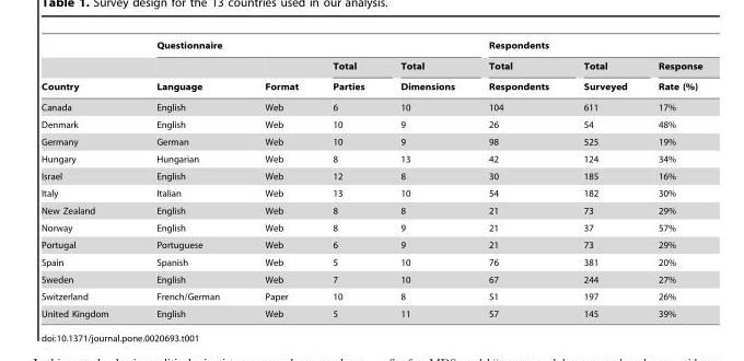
<table><thead><tr><td rowspan="3">Country</td><td colspan="4">Questionnaire</td><td colspan="3">Respondents</td></tr><tr><td rowspan="2">Language</td><td rowspan="2">Format</td><td rowspan="2">Total Parties</td><td rowspan="2">Total Dimensions</td><td rowspan="2">Total Respondents</td><td rowspan="2">Total Surveyed</td><td rowspan="2">Response Rate (%)</td></tr><tr></tr></thead><tbody><tr><td>Canada</td><td>English</td><td>Web</td><td>6</td><td>10</td><td>104</td><td>611</td><td>17%</td></tr><tr><td>Denmark</td><td>English</td><td>Web</td><td>10</td><td>9</td><td>26</td><td>54</td><td>48%</td></tr><tr><td>Germany</td><td>German</td><td>Web</td><td>10</td><td>9</td><td>98</td><td>525</td><td>19%</td></tr><tr><td>Hungary</td><td>Hungarian</td><td>Web</td><td>8</td><td>13</td><td>42</td><td>124</td><td>34%</td></tr><tr><td>Israel</td><td>English</td><td>Web</td><td>12</td><td>8</td><td>30</td><td>185</td><td>16%</td></tr><tr><td>Italy</td><td>Italian</td><td>Web</td><td>13</td><td>10</td><td>54</td><td>182</td><td>30%</td></tr><tr><td>New Zealand</td><td>English</td><td>Web</td><td>8</td><td>8</td><td>21</td><td>73</td><td>29%</td></tr><tr><td>Norway</td><td>English</td><td>Web</td><td>8</td><td>9</td><td>21</td><td>37</td><td>57%</td></tr><tr><td>Portugal</td><td>Portuguese</td><td>Web</td><td>6</td><td>9</td><td>21</td><td>73</td><td>29%</td></tr><tr><td>Spain</td><td>Spanish</td><td>Web</td><td>5</td><td>10</td><td>76</td><td>381</td><td>20%</td></tr><tr><td>Sweden</td><td>English</td><td>Web</td><td>7</td><td>10</td><td>67</td><td>244</td><td>27%</td></tr><tr><td>Switzerland</td><td>French/German</td><td>Paper</td><td>10</td><td>8</td><td>51</td><td>197</td><td>26%</td></tr><tr><td>United Kingdom</td><td>English</td><td>Web</td><td>5</td><td>11</td><td>57</td><td>145</td><td>39%</td></tr></tbody></table>